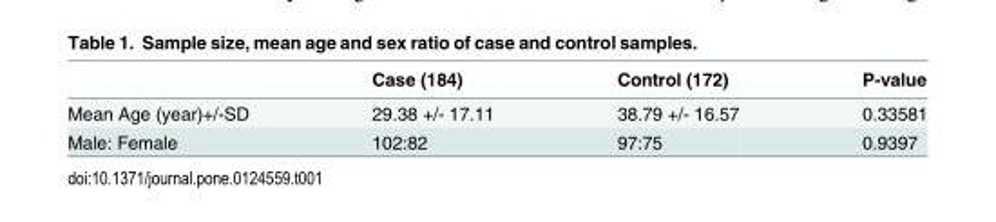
<table><thead><tr><td></td><td>Case (184)</td><td>Control (172)</td><td>P-value</td></tr></thead><tbody><tr><td>Mean Age (year)+/-SD</td><td>29.38 +/- 17.11</td><td>38.79 +/- 16.57</td><td>0.33581</td></tr><tr><td>Male: Female</td><td>102:82</td><td>97:75</td><td>0.9397</td></tr></tbody></table>